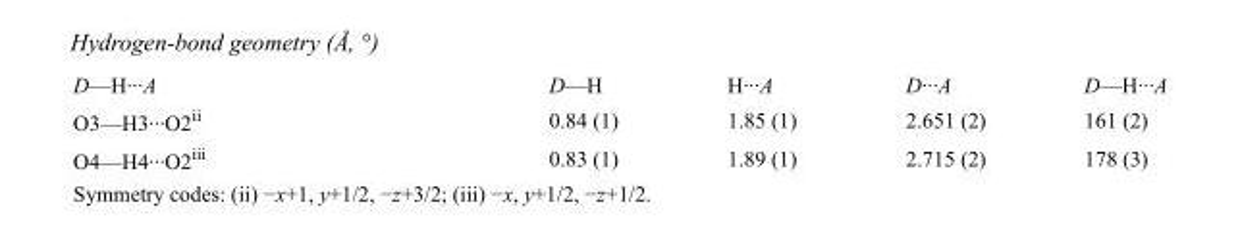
<table><tbody><tr><td>D—H···A</td><td>D—H</td><td>H···A</td><td>D···A</td><td>D—H···A</td></tr><tr><td>O3—H3···O2<sup>ii</sup></td><td>0.84 (1)</td><td>1.85 (1)</td><td>2.651 (2)</td><td>161 (2)</td></tr><tr><td>O4—H4···O2<sup>iii</sup></td><td>0.83 (1)</td><td>1.89 (1)</td><td>2.715 (2)</td><td>178 (3)</td></tr></tbody></table>